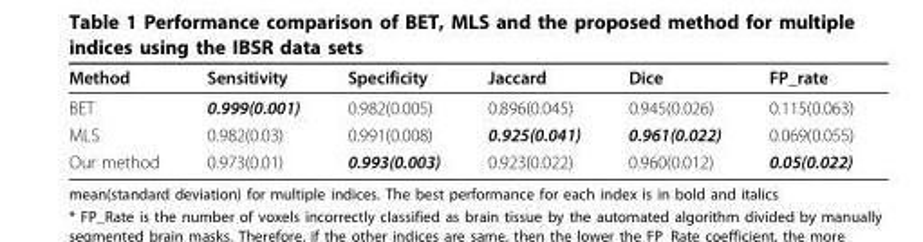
<table><thead><tr><td>Method</td><td>Sensitivity</td><td>Specificity</td><td>Jaccard</td><td>Dice</td><td>FP_rate</td></tr></thead><tbody><tr><td>BET</td><td>0.999(0.001)</td><td>0.982(0.005)</td><td>0.896(0.045)</td><td>0.945(0.026)</td><td>0.115(0.063)</td></tr><tr><td>MLS</td><td>0.982(0.03)</td><td>0.991(0.008)</td><td>0.925(0.041)</td><td>0.961(0.022)</td><td>0.069(0.055)</td></tr><tr><td>Our method</td><td>0.973(0.01)</td><td>0.993(0.003)</td><td>0.923(0.022)</td><td>0.960(0.012)</td><td>0.05(0.022)</td></tr></tbody></table>